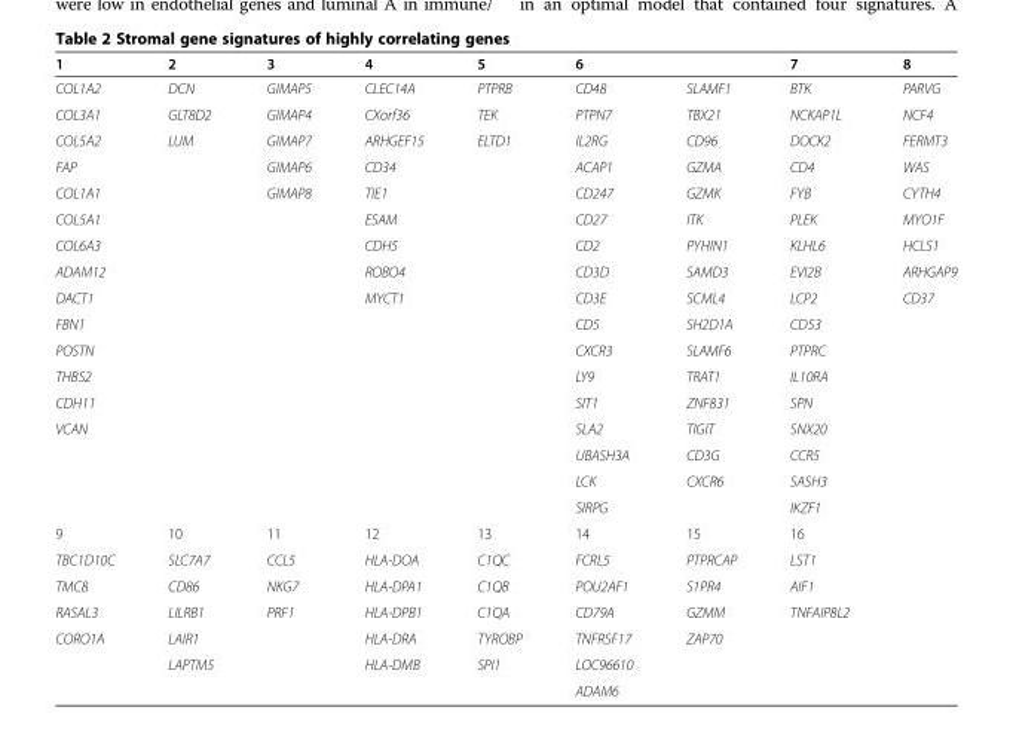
<table><thead><tr><td rowspan="2">1 COL1A2</td><td rowspan="2">2 DCN</td><td rowspan="2">3 GIMAP5</td><td rowspan="2">4 CLEC14A</td><td rowspan="2">5 PTPRB</td><td colspan="2">6</td><td rowspan="2">7 BTK</td><td rowspan="2">8 PARVG</td></tr><tr><td>CD48</td><td>SLAMF1</td></tr></thead><tbody><tr><td>COL3A1</td><td>GLT8D2</td><td>GIMAP4</td><td>CXorf36</td><td>TEK</td><td>PTPN7</td><td>TBX21</td><td>NCKAP1L</td><td>NCF4</td></tr><tr><td>COL5A2</td><td>LUM</td><td>GIMAP7</td><td>ARHGEF15</td><td>ELTD1</td><td>IL2RG</td><td>CD96</td><td>DOCK2</td><td>FERMT3</td></tr><tr><td>FAP</td><td></td><td>GIMAP6</td><td>CD34</td><td></td><td>ACAP1</td><td>GZMA</td><td>CD4</td><td>WAS</td></tr><tr><td>COL1A1</td><td></td><td>GIMAP8</td><td>TIE1</td><td></td><td>CD247</td><td>GZMK</td><td>FYB</td><td>CYTH4</td></tr><tr><td>COL5A1</td><td></td><td></td><td>ESAM</td><td></td><td>CD27</td><td>ITK</td><td>PLEK</td><td>MYO1F</td></tr><tr><td>COL6A3</td><td></td><td></td><td>CDH5</td><td></td><td>CD2</td><td>PYHIN1</td><td>KLHL6</td><td>HCLS1</td></tr><tr><td>ADAM12</td><td></td><td></td><td>ROBO4</td><td></td><td>CD3D</td><td>SAMD3</td><td>EVI2B</td><td>ARHGAP9</td></tr><tr><td>DACT1</td><td></td><td></td><td>MYCT1</td><td></td><td>CD3E</td><td>SCML4</td><td>LCP2</td><td>CD37</td></tr><tr><td>FBN1</td><td></td><td></td><td></td><td></td><td>CD5</td><td>SH2D1A</td><td>CD53</td><td></td></tr><tr><td>POSTN</td><td></td><td></td><td></td><td></td><td>CXCR3</td><td>SLAMF6</td><td>PTPRC</td><td></td></tr><tr><td>THBS2</td><td></td><td></td><td></td><td></td><td>LY9</td><td>TRAT1</td><td>IL10RA</td><td></td></tr><tr><td>CDH11</td><td></td><td></td><td></td><td></td><td>SIT1</td><td>ZNF831</td><td>SPN</td><td></td></tr><tr><td rowspan="4">VCAN</td><td></td><td></td><td></td><td></td><td>SLA2</td><td>TIGIT</td><td>SNX20</td><td></td></tr><tr><td></td><td></td><td></td><td></td><td>UBASH3A</td><td>CD3G</td><td>CCR5</td><td></td></tr><tr><td></td><td></td><td></td><td></td><td>LCK</td><td>CXCR6</td><td>SASH3</td><td></td></tr><tr><td></td><td></td><td></td><td></td><td>SIRPG</td><td></td><td>IKZF1</td><td></td></tr><tr><td>9</td><td>10</td><td>11</td><td>12</td><td>13</td><td>14</td><td>15</td><td>16</td><td></td></tr><tr><td>TBC1D10C</td><td>SLC7A7</td><td>CCL5</td><td>HLA-DOA</td><td>C1QC</td><td>FCRL5</td><td>PTPRCAP</td><td>LST1</td><td></td></tr><tr><td>TMC8</td><td>CD86</td><td>NKG7</td><td>HLA-DPA1</td><td>C1QB</td><td>POU2AF1</td><td>S1PR4</td><td>AIF1</td><td></td></tr><tr><td>RASAL3</td><td>LILRB1</td><td>PRF1</td><td>HLA-DPB1</td><td>C1QA</td><td>CD79A</td><td>GZMM</td><td>TNFAIP8L2</td><td></td></tr><tr><td rowspan="3">CORO1A</td><td>LAIR1</td><td></td><td>HLA-DRA</td><td>TYROBP</td><td>TNFRSF17</td><td>ZAP70</td><td></td><td></td></tr><tr><td>LAPTM5</td><td></td><td>HLA-DMB</td><td>SPI1</td><td>LOC96610</td><td></td><td></td><td></td></tr><tr><td></td><td></td><td></td><td></td><td>ADAM6</td><td></td><td></td><td></td></tr></tbody></table>